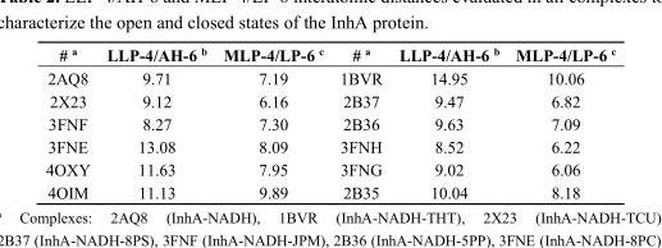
<table><thead><tr><td># <sup>a</sup></td><td>LLP-4/AH-6 <sup>b</sup></td><td>MLP-4/LP-6 <sup>c</sup></td><td># <sup>a</sup></td><td>LLP-4/AH-6 <sup>b</sup></td><td>MLP-4/LP-6 <sup>c</sup></td></tr></thead><tbody><tr><td>2AQ8</td><td>9.71</td><td>7.19</td><td>1BVR</td><td>14.95</td><td>10.06</td></tr><tr><td>2X23</td><td>9.12</td><td>6.16</td><td>2B37</td><td>9.47</td><td>6.82</td></tr><tr><td>3FNF</td><td>8.27</td><td>7.30</td><td>2B36</td><td>9.63</td><td>7.09</td></tr><tr><td>3FNE</td><td>13.08</td><td>8.09</td><td>3FNH</td><td>8.52</td><td>6.22</td></tr><tr><td>4OXY</td><td>11.63</td><td>7.95</td><td>3FNG</td><td>9.02</td><td>6.06</td></tr><tr><td>4OIM</td><td>11.13</td><td>9.89</td><td>2B35</td><td>10.04</td><td>8.18</td></tr></tbody></table>